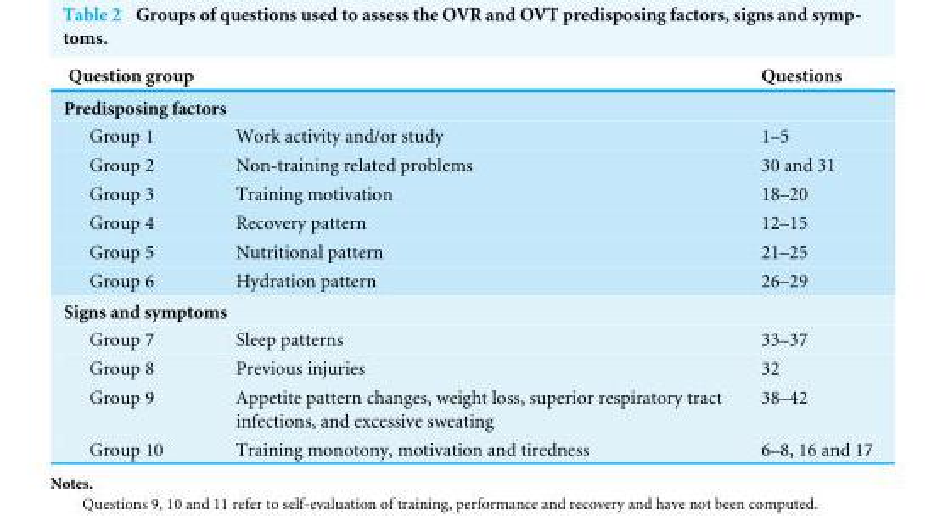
<table><thead><tr><td>Question group</td><td></td><td>Questions</td></tr></thead><tbody><tr><td colspan="3">Predisposing factors</td></tr><tr><td>Group 1</td><td>Work activity and/or study</td><td>1–5</td></tr><tr><td>Group 2</td><td>Non-training related problems</td><td>30 and 31</td></tr><tr><td>Group 3</td><td>Training motivation</td><td>18–20</td></tr><tr><td>Group 4</td><td>Recovery pattern</td><td>12–15</td></tr><tr><td>Group 5</td><td>Nutritional pattern</td><td>21–25</td></tr><tr><td>Group 6</td><td>Hydration pattern</td><td>26–29</td></tr><tr><td colspan="3">Signs and symptoms</td></tr><tr><td>Group 7</td><td>Sleep patterns</td><td>33–37</td></tr><tr><td>Group 8</td><td>Previous injuries</td><td>32</td></tr><tr><td>Group 9</td><td>Appetite pattern changes, weight loss, superior respiratory tract infections, and excessive sweating</td><td>38–42</td></tr><tr><td>Group 10</td><td>Training monotony, motivation and tiredness</td><td>6–8, 16 and 17</td></tr></tbody></table>